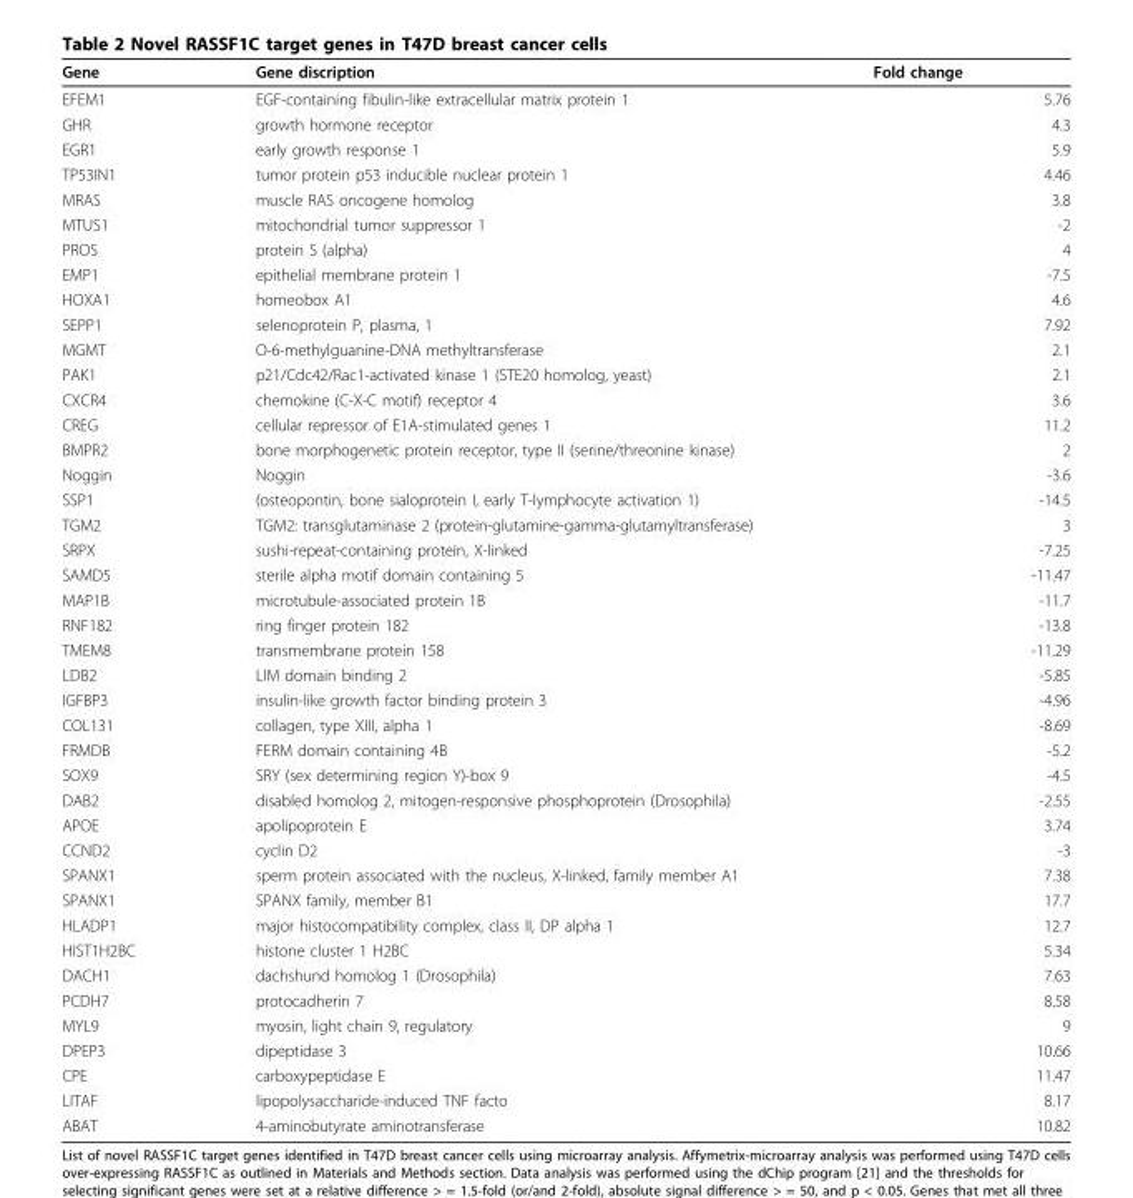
<table><thead><tr><td>Gene</td><td>Gene discription</td><td>Fold change</td></tr></thead><tbody><tr><td>EFEM1</td><td>EGF-containing fibulin-like extracellular matrix protein 1</td><td>5.76</td></tr><tr><td>GHR</td><td>growth hormone receptor</td><td>4.3</td></tr><tr><td>EGR1</td><td>early growth response 1</td><td>5.9</td></tr><tr><td>TP53IN1</td><td>tumor protein p53 inducible nuclear protein 1</td><td>4.46</td></tr><tr><td>MRAS</td><td>muscle RAS oncogene homolog</td><td>3.8</td></tr><tr><td>MTUS1</td><td>mitochondrial tumor suppressor 1</td><td>-2</td></tr><tr><td>PROS</td><td>protein S (alpha)</td><td>4</td></tr><tr><td>EMP1</td><td>epithelial membrane protein 1</td><td>-7.5</td></tr><tr><td>HOXA1</td><td>homeobox A1</td><td>4.6</td></tr><tr><td>SEPP1</td><td>selenoprotein P, plasma, 1</td><td>7.92</td></tr><tr><td>MGMT</td><td>O-6-methylguanine-DNA methyltransferase</td><td>2.1</td></tr><tr><td>PAK1</td><td>p21/Cdc42/Rac1-activated kinase 1 (STE20 homolog, yeast)</td><td>2.1</td></tr><tr><td>CXCR4</td><td>chemokine (C-X-C motif) receptor 4</td><td>3.6</td></tr><tr><td>CREG</td><td>cellular repressor of E1A-stimulated genes 1</td><td>11.2</td></tr><tr><td>BMPR2</td><td>bone morphogenetic protein receptor, type II (serine/threonine kinase)</td><td>2</td></tr><tr><td>Noggin</td><td>Noggin</td><td>-3.6</td></tr><tr><td>SSP1</td><td>(osteopontin, bone sialoprotein I, early T-lymphocyte activation 1)</td><td>-14.5</td></tr><tr><td>TGM2</td><td>TGM2: transglutaminase 2 (protein-glutamine-gamma-glutamyltransferase)</td><td>3</td></tr><tr><td>SRPX</td><td>sushi-repeat-containing protein, X-linked</td><td>-7.25</td></tr><tr><td>SAMD5</td><td>sterile alpha motif domain containing 5</td><td>-11.47</td></tr><tr><td>MAP1B</td><td>microtubule-associated protein 1B</td><td>-11.7</td></tr><tr><td>RNF182</td><td>ring finger protein 182</td><td>-13.8</td></tr><tr><td>TMEM8</td><td>transmembrane protein 158</td><td>-11.29</td></tr><tr><td>LDB2</td><td>LIM domain binding 2</td><td>-5.85</td></tr><tr><td>IGFBP3</td><td>insulin-like growth factor binding protein 3</td><td>-4.96</td></tr><tr><td>COL131</td><td>collagen, type XIII, alpha 1</td><td>-8.69</td></tr><tr><td>FRMDB</td><td>FERM domain containing 4B</td><td>-5.2</td></tr><tr><td>SOX9</td><td>SRY (sex determining region Y)-box 9</td><td>-4.5</td></tr><tr><td>DAB2</td><td>disabled homolog 2, mitogen-responsive phosphoprotein (Drosophila)</td><td>-2.55</td></tr><tr><td>APOE</td><td>apolipoprotein E</td><td>3.74</td></tr><tr><td>CCND2</td><td>cyclin D2</td><td>-3</td></tr><tr><td>SPANX1</td><td>sperm protein associated with the nucleus, X-linked, family member A1</td><td>7.38</td></tr><tr><td>SPANX1</td><td>SPANX family, member B1</td><td>17.7</td></tr><tr><td>HLADP1</td><td>major histocompatibility complex, class II, DP alpha 1</td><td>12.7</td></tr><tr><td>HIST1H2BC</td><td>histone cluster 1 H2BC</td><td>5.34</td></tr><tr><td>DACH1</td><td>dachshund homolog 1 (Drosophila)</td><td>7.63</td></tr><tr><td>PCDH7</td><td>protocadherin 7</td><td>8.58</td></tr><tr><td>MYL9</td><td>myosin, light chain 9, regulatory</td><td>9</td></tr><tr><td>DPEP3</td><td>dipeptidase 3</td><td>10.66</td></tr><tr><td>CPE</td><td>carboxypeptidase E</td><td>11.47</td></tr><tr><td>LITAF</td><td>lipopolysaccharide-induced TNF facto</td><td>8.17</td></tr><tr><td>ABAT</td><td>4-aminobutyrate aminotransferase</td><td>10.82</td></tr></tbody></table>